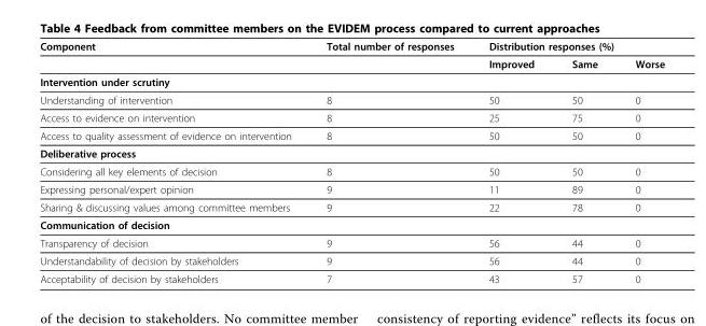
<table><thead><tr><td rowspan="2">Component</td><td rowspan="2">Total number of responses</td><td colspan="3">Distribution responses (%)</td></tr><tr><td>Improved</td><td>Same</td><td>Worse</td></tr></thead><tbody><tr><td colspan="5">Intervention under scrutiny</td></tr><tr><td>Understanding of intervention</td><td>8</td><td>50</td><td>50</td><td>0</td></tr><tr><td>Access to evidence on intervention</td><td>8</td><td>25</td><td>75</td><td>0</td></tr><tr><td>Access to quality assessment of evidence on intervention</td><td>8</td><td>50</td><td>50</td><td>0</td></tr><tr><td colspan="5">Deliberative process</td></tr><tr><td>Considering all key elements of decision</td><td>8</td><td>50</td><td>50</td><td>0</td></tr><tr><td>Expressing personal/expert opinion</td><td>9</td><td>11</td><td>89</td><td>0</td></tr><tr><td>Sharing &amp; discussing values among committee members</td><td>9</td><td>22</td><td>78</td><td>0</td></tr><tr><td colspan="5">Communication of decision</td></tr><tr><td>Transparency of decision</td><td>9</td><td>56</td><td>44</td><td>0</td></tr><tr><td>Understandability of decision by stakeholders</td><td>9</td><td>56</td><td>44</td><td>0</td></tr><tr><td>Acceptability of decision by stakeholders</td><td>7</td><td>43</td><td>57</td><td>0</td></tr></tbody></table>